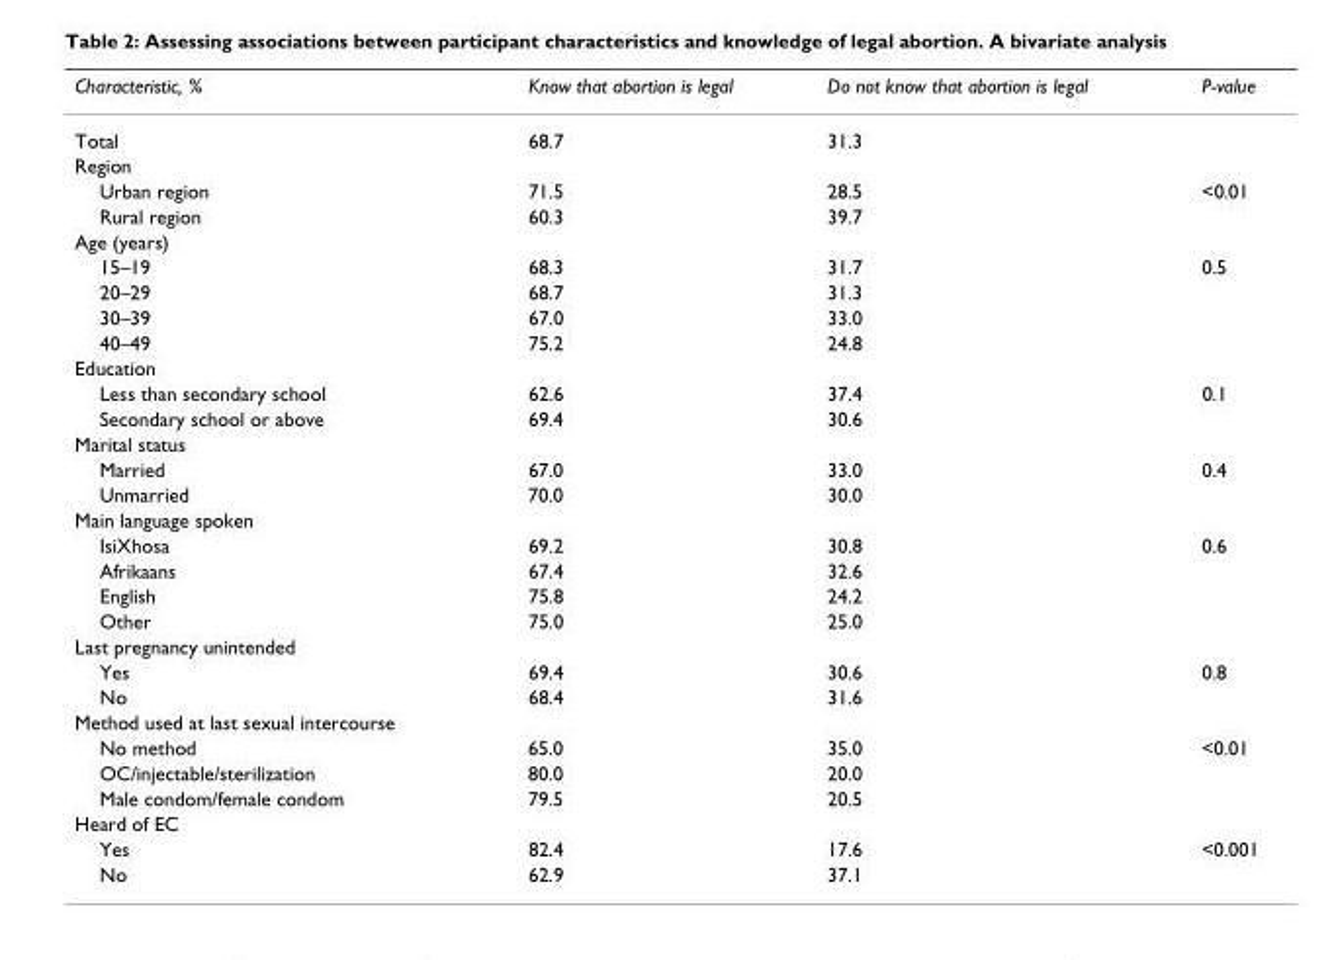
<table><thead><tr><td>Characteristic, %</td><td>Know that abortion is legal</td><td>Do not know that abortion is legal</td><td>P-value</td></tr></thead><tbody><tr><td>Total</td><td>68.7</td><td>31.3</td><td></td></tr><tr><td colspan="4">Region</td></tr><tr><td>Urban region</td><td>71.5</td><td>28.5</td><td>&lt;0.01</td></tr><tr><td>Rural region</td><td>60.3</td><td>39.7</td><td></td></tr><tr><td colspan="4">Age (years)</td></tr><tr><td>15–19</td><td>68.3</td><td>31.7</td><td>0.5</td></tr><tr><td>20–29</td><td>68.7</td><td>31.3</td><td></td></tr><tr><td>30–39</td><td>67.0</td><td>33.0</td><td></td></tr><tr><td>40–49</td><td>75.2</td><td>24.8</td><td></td></tr><tr><td colspan="4">Education</td></tr><tr><td>Less than secondary school</td><td>62.6</td><td>37.4</td><td>0.1</td></tr><tr><td>Secondary school or above</td><td>69.4</td><td>30.6</td><td></td></tr><tr><td colspan="4">Marital status</td></tr><tr><td>Married</td><td>67.0</td><td>33.0</td><td>0.4</td></tr><tr><td>Unmarried</td><td>70.0</td><td>30.0</td><td></td></tr><tr><td colspan="4">Main language spoken</td></tr><tr><td>IsiXhosa</td><td>69.2</td><td>30.8</td><td>0.6</td></tr><tr><td>Afrikaans</td><td>67.4</td><td>32.6</td><td></td></tr><tr><td>English</td><td>75.8</td><td>24.2</td><td></td></tr><tr><td>Other</td><td>75.0</td><td>25.0</td><td></td></tr><tr><td colspan="4">Last pregnancy unintended</td></tr><tr><td>Yes</td><td>69.4</td><td>30.6</td><td>0.8</td></tr><tr><td>No</td><td>68.4</td><td>31.6</td><td></td></tr><tr><td colspan="4">Method used at last sexual intercourse</td></tr><tr><td>No method</td><td>65.0</td><td>35.0</td><td>&lt;0.01</td></tr><tr><td>OC/injectable/sterilization</td><td>80.0</td><td>20.0</td><td></td></tr><tr><td>Male condom/female condom</td><td>79.5</td><td>20.5</td><td></td></tr><tr><td colspan="4">Heard of EC</td></tr><tr><td>Yes</td><td>82.4</td><td>17.6</td><td>&lt;0.001</td></tr><tr><td>No</td><td>62.9</td><td>37.1</td><td></td></tr></tbody></table>